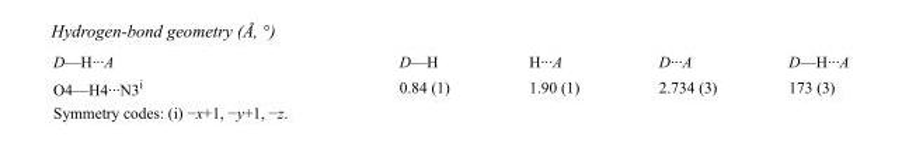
<table><tbody><tr><td>D—H···A</td><td>D—H</td><td>H···A</td><td>D···A</td><td>D—H···A</td></tr><tr><td>O4—H4···N3<sup>i</sup></td><td>0.84 (1)</td><td>1.90 (1)</td><td>2.734 (3)</td><td>173 (3)</td></tr></tbody></table>